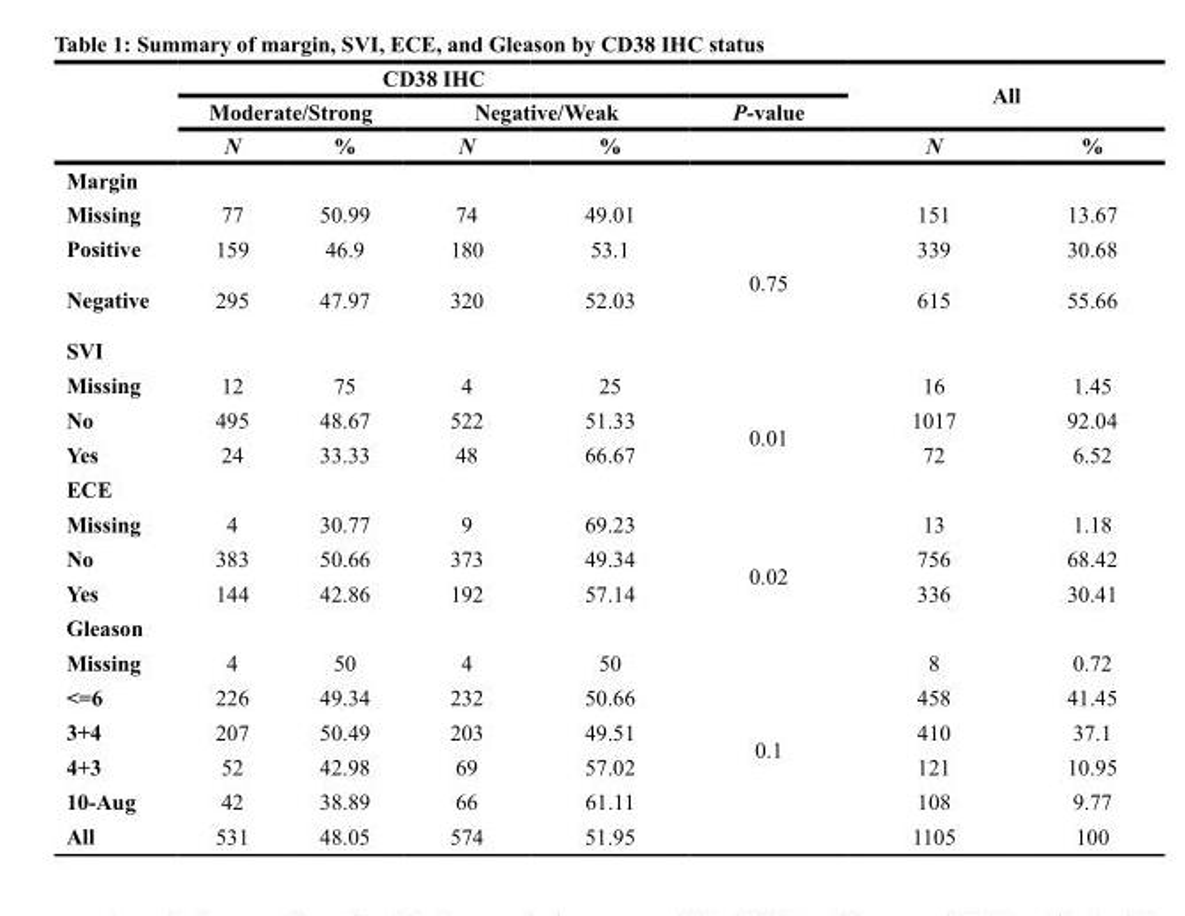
<table><thead><tr><td rowspan="3"></td><td colspan="4">CD38 IHC</td><td rowspan="3">P-value</td><td rowspan="2" colspan="2">All</td></tr><tr><td colspan="2">Moderate/Strong</td><td colspan="2">Negative/Weak</td></tr><tr><td>N</td><td>%</td><td>N</td><td>%</td><td>N</td><td>%</td></tr></thead><tbody><tr><td colspan="8">Margin</td></tr><tr><td>Missing</td><td>77</td><td>50.99</td><td>74</td><td>49.01</td><td></td><td>151</td><td>13.67</td></tr><tr><td>Positive</td><td>159</td><td>46.9</td><td>180</td><td>53.1</td><td rowspan="2">0.75</td><td>339</td><td>30.68</td></tr><tr><td>Negative</td><td>295</td><td>47.97</td><td>320</td><td>52.03</td><td>615</td><td>55.66</td></tr><tr><td colspan="8">SVI</td></tr><tr><td>Missing</td><td>12</td><td>75</td><td>4</td><td>25</td><td></td><td>16</td><td>1.45</td></tr><tr><td>No</td><td>495</td><td>48.67</td><td>522</td><td>51.33</td><td rowspan="2">0.01</td><td>1017</td><td>92.04</td></tr><tr><td>Yes</td><td>24</td><td>33.33</td><td>48</td><td>66.67</td><td>72</td><td>6.52</td></tr><tr><td colspan="8">ECE</td></tr><tr><td>Missing</td><td>4</td><td>30.77</td><td>9</td><td>69.23</td><td></td><td>13</td><td>1.18</td></tr><tr><td>No</td><td>383</td><td>50.66</td><td>373</td><td>49.34</td><td rowspan="2">0.02</td><td>756</td><td>68.42</td></tr><tr><td>Yes</td><td>144</td><td>42.86</td><td>192</td><td>57.14</td><td>336</td><td>30.41</td></tr><tr><td colspan="8">Gleason</td></tr><tr><td>Missing</td><td>4</td><td>50</td><td>4</td><td>50</td><td></td><td>8</td><td>0.72</td></tr><tr><td>&lt;=6</td><td>226</td><td>49.34</td><td>232</td><td>50.66</td><td rowspan="4">0.1</td><td>458</td><td>41.45</td></tr><tr><td>3+4</td><td>207</td><td>50.49</td><td>203</td><td>49.51</td><td>410</td><td>37.1</td></tr><tr><td>4+3</td><td>52</td><td>42.98</td><td>69</td><td>57.02</td><td>121</td><td>10.95</td></tr><tr><td>10-Aug</td><td>42</td><td>38.89</td><td>66</td><td>61.11</td><td>108</td><td>9.77</td></tr><tr><td>All</td><td>531</td><td>48.05</td><td>574</td><td>51.95</td><td></td><td>1105</td><td>100</td></tr></tbody></table>